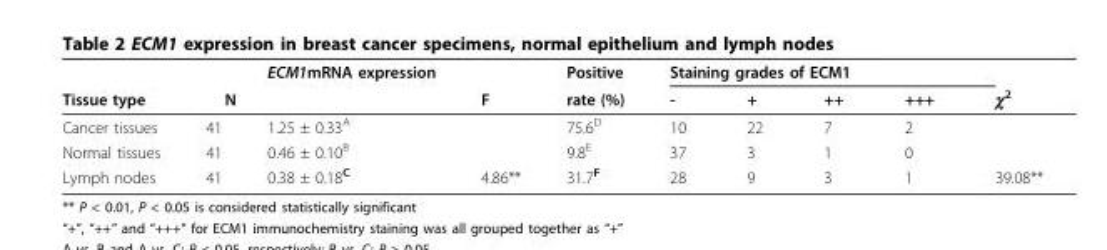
<table><thead><tr><td rowspan="2">Tissue type</td><td rowspan="2">N</td><td rowspan="2">ECM1mRNA expression</td><td rowspan="2">F</td><td rowspan="2">Positive rate (%)</td><td colspan="4">Staining grades of ECM1</td><td rowspan="2">χ<sup>2</sup></td></tr><tr><td>-</td><td>+</td><td>++</td><td>+++</td></tr></thead><tbody><tr><td>Cancer tissues</td><td>41</td><td>1.25 ± 0.33<sup>A</sup></td><td></td><td>75.6<sup>D</sup></td><td>10</td><td>22</td><td>7</td><td>2</td><td></td></tr><tr><td>Normal tissues</td><td>41</td><td>0.46 ± 0.10<sup>B</sup></td><td></td><td>9.8<sup>E</sup></td><td>37</td><td>3</td><td>1</td><td>0</td><td></td></tr><tr><td>Lymph nodes</td><td>41</td><td>0.38 ± 0.18<sup>C</sup></td><td>4.86**</td><td>31.7<sup>F</sup></td><td>28</td><td>9</td><td>3</td><td>1</td><td>39.08**</td></tr></tbody></table>